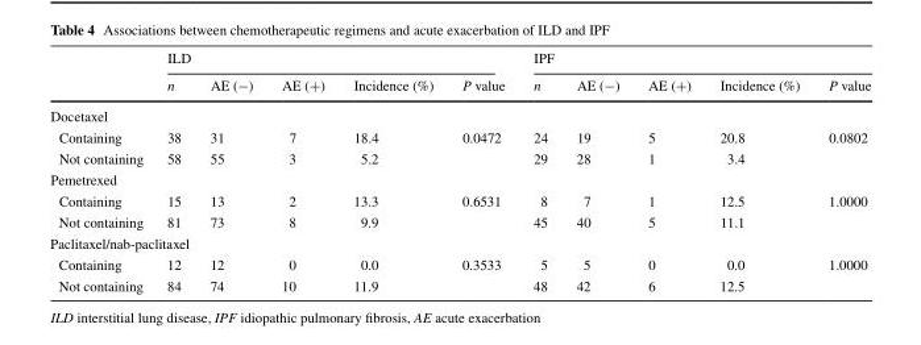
<table><thead><tr><td rowspan="2"></td><td colspan="5">ILD</td><td colspan="5">IPF</td></tr><tr><td>n</td><td>AE (−)</td><td>AE (+)</td><td>Incidence (%)</td><td>P value</td><td>n</td><td>AE (−)</td><td>AE (+)</td><td>Incidence (%)</td><td>P value</td></tr></thead><tbody><tr><td colspan="11">Docetaxel</td></tr><tr><td>Containing</td><td>38</td><td>31</td><td>7</td><td>18.4</td><td>0.0472</td><td>24</td><td>19</td><td>5</td><td>20.8</td><td>0.0802</td></tr><tr><td>Not containing</td><td>58</td><td>55</td><td>3</td><td>5.2</td><td></td><td>29</td><td>28</td><td>1</td><td>3.4</td><td></td></tr><tr><td colspan="11">Pemetrexed</td></tr><tr><td>Containing</td><td>15</td><td>13</td><td>2</td><td>13.3</td><td>0.6531</td><td>8</td><td>7</td><td>1</td><td>12.5</td><td>1.0000</td></tr><tr><td>Not containing</td><td>81</td><td>73</td><td>8</td><td>9.9</td><td></td><td>45</td><td>40</td><td>5</td><td>11.1</td><td></td></tr><tr><td colspan="11">Paclitaxel/nab-paclitaxel</td></tr><tr><td>Containing</td><td>12</td><td>12</td><td>0</td><td>0.0</td><td>0.3533</td><td>5</td><td>5</td><td>0</td><td>0.0</td><td>1.0000</td></tr><tr><td>Not containing</td><td>84</td><td>74</td><td>10</td><td>11.9</td><td></td><td>48</td><td>42</td><td>6</td><td>12.5</td><td></td></tr></tbody></table>